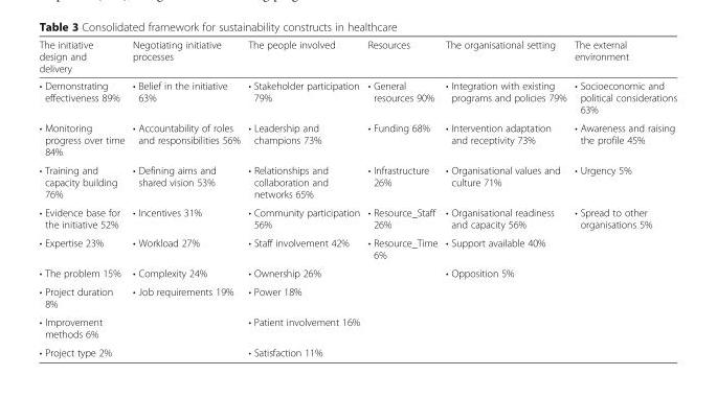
<table><thead><tr><td>The initiative design and delivery</td><td>Negotiating initiative processes</td><td>The people involved</td><td>Resources</td><td>The organisational setting</td><td>The external environment</td></tr></thead><tbody><tr><td>• Demonstrating effectiveness 89%</td><td>• Belief in the initiative 63%</td><td>• Stakeholder participation 79%</td><td>• General resources 90%</td><td>• Integration with existing programs and policies 79%</td><td>• Socioeconomic and political considerations 63%</td></tr><tr><td>• Monitoring progress over time 84%</td><td>• Accountability of roles and responsibilities 56%</td><td>• Leadership and champions 73%</td><td>• Funding 68%</td><td>• Intervention adaptation and receptivity 73%</td><td>• Awareness and raising the profile 45%</td></tr><tr><td>• Training and capacity building 76%</td><td>• Defining aims and shared vision 53%</td><td>• Relationships and collaboration and networks 65%</td><td>• Infrastructure 26%</td><td>• Organisational values and culture 71%</td><td>• Urgency 5%</td></tr><tr><td>• Evidence base for the initiative 52%</td><td>• Incentives 31%</td><td>• Community participation 56%</td><td>• Resource_Staff 26%</td><td>• Organisational readiness and capacity 56%</td><td>• Spread to other organisations 5%</td></tr><tr><td>• Expertise 23%</td><td>• Workload 27%</td><td>• Staff involvement 42%</td><td>• Resource_Time 6%</td><td>• Support available 40%</td><td></td></tr><tr><td>• The problem 15%</td><td>• Complexity 24%</td><td>• Ownership 26%</td><td></td><td>• Opposition 5%</td><td></td></tr><tr><td>• Project duration 8%</td><td>• Job requirements 19%</td><td>• Power 18%</td><td></td><td></td><td></td></tr><tr><td>• Improvement methods 6%</td><td></td><td>• Patient involvement 16%</td><td></td><td></td><td></td></tr><tr><td>• Project type 2%</td><td></td><td>• Satisfaction 11%</td><td></td><td></td><td></td></tr></tbody></table>